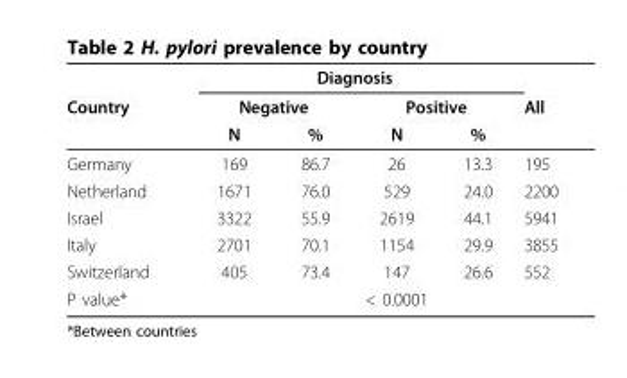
<table><thead><tr><td rowspan="3">Country</td><td colspan="4">Diagnosis</td><td rowspan="3">All</td></tr><tr><td colspan="2">Negative</td><td colspan="2">Positive</td></tr><tr><td>N</td><td>%</td><td>N</td><td>%</td></tr></thead><tbody><tr><td>Germany</td><td>169</td><td>86.7</td><td>26</td><td>13.3</td><td>195</td></tr><tr><td>Netherland</td><td>1671</td><td>76.0</td><td>529</td><td>24.0</td><td>2200</td></tr><tr><td>Israel</td><td>3322</td><td>55.9</td><td>2619</td><td>44.1</td><td>5941</td></tr><tr><td>Italy</td><td>2701</td><td>70.1</td><td>1154</td><td>29.9</td><td>3855</td></tr><tr><td>Switzerland</td><td>405</td><td>73.4</td><td>147</td><td>26.6</td><td>552</td></tr><tr><td>P value*</td><td colspan="5">&lt; 0.0001</td></tr></tbody></table>